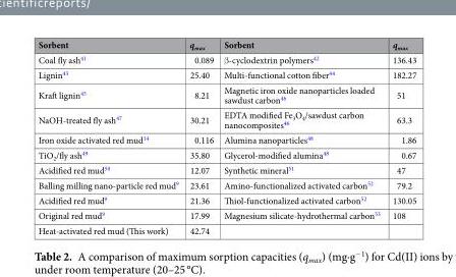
<table><thead><tr><td>Sorbent</td><td>q<sub>max</sub></td><td>Sorbent</td><td>q<sub>max</sub></td></tr></thead><tbody><tr><td>Coal fly ash<sup>41</sup></td><td>0.089</td><td>β-cyclodextrin polymers<sup>42</sup></td><td>136.43</td></tr><tr><td>Lignin<sup>43</sup></td><td>25.40</td><td>Multi-functional cotton fiber<sup>44</sup></td><td>182.27</td></tr><tr><td>Kraft lignin<sup>45</sup></td><td>8.21</td><td>Magnetic iron oxide nanoparticles loaded sawdust carbon<sup>46</sup></td><td>51</td></tr><tr><td>NaOH-treated fly ash<sup>47</sup></td><td>30.21</td><td>EDTA modified Fe<sub>3</sub>O<sub>4</sub>/sawdust carbon nanocomposites<sup>46</sup></td><td>63.3</td></tr><tr><td>Iron oxide activated red mud<sup>14</sup></td><td>0.116</td><td>Alumina nanoparticles<sup>48</sup></td><td>1.86</td></tr><tr><td>TiO<sub>2</sub>/fly ash<sup>49</sup></td><td>35.80</td><td>Glycerol-modified alumina<sup>48</sup></td><td>0.67</td></tr><tr><td>Acidified red mud<sup>50</sup></td><td>12.07</td><td>Synthetic mineral<sup>51</sup></td><td>47</td></tr><tr><td>Balling milling nano-particle red mud<sup>9</sup></td><td>23.61</td><td>Amino-functionalized activated carbon<sup>52</sup></td><td>79.2</td></tr><tr><td>Acidified red mud<sup>9</sup></td><td>21.36</td><td>Thiol-functionalized activated carbon<sup>52</sup></td><td>130.05</td></tr><tr><td>Original red mud<sup>9</sup></td><td>17.99</td><td>Magnesium silicate-hydrothermal carbon<sup>53</sup></td><td>108</td></tr><tr><td>Heat-activated red mud (This work)</td><td>42.74</td><td></td><td></td></tr></tbody></table>